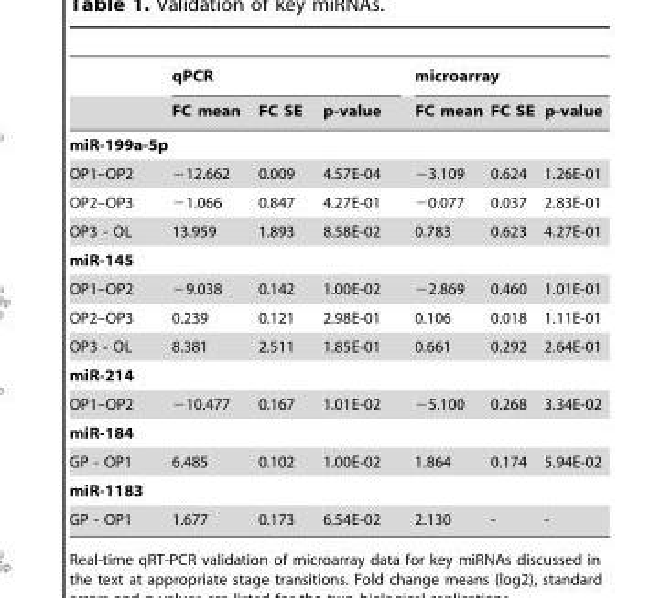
<table><thead><tr><td rowspan="2"></td><td colspan="3">qPCR</td><td colspan="3">microarray</td></tr><tr><td>FC mean</td><td>FC SE</td><td>p-value</td><td>FC mean</td><td>FC SE</td><td>p-value</td></tr></thead><tbody><tr><td colspan="7">miR-199a-5p</td></tr><tr><td>OP1–OP2</td><td>−12.662</td><td>0.009</td><td>4.57E-04</td><td>−3.109</td><td>0.624</td><td>1.26E-01</td></tr><tr><td>OP2–OP3</td><td>−1.066</td><td>0.847</td><td>4.27E-01</td><td>−0.077</td><td>0.037</td><td>2.83E-01</td></tr><tr><td>OP3 - OL</td><td>13.959</td><td>1.893</td><td>8.58E-02</td><td>0.783</td><td>0.623</td><td>4.27E-01</td></tr><tr><td colspan="7">miR-145</td></tr><tr><td>OP1–OP2</td><td>−9.038</td><td>0.142</td><td>1.00E-02</td><td>−2.869</td><td>0.460</td><td>1.01E-01</td></tr><tr><td>OP2–OP3</td><td>0.239</td><td>0.121</td><td>2.98E-01</td><td>0.106</td><td>0.018</td><td>1.11E-01</td></tr><tr><td>OP3 - OL</td><td>8.381</td><td>2.511</td><td>1.85E-01</td><td>0.661</td><td>0.292</td><td>2.64E-01</td></tr><tr><td colspan="7">miR-214</td></tr><tr><td>OP1–OP2</td><td>−10.477</td><td>0.167</td><td>1.01E-02</td><td>−5.100</td><td>0.268</td><td>3.34E-02</td></tr><tr><td colspan="7">miR-184</td></tr><tr><td>GP - OP1</td><td>6.485</td><td>0.102</td><td>1.00E-02</td><td>1.864</td><td>0.174</td><td>5.94E-02</td></tr><tr><td colspan="7">miR-1183</td></tr><tr><td>GP - OP1</td><td>1.677</td><td>0.173</td><td>6.54E-02</td><td>2.130</td><td>-</td><td>-</td></tr></tbody></table>